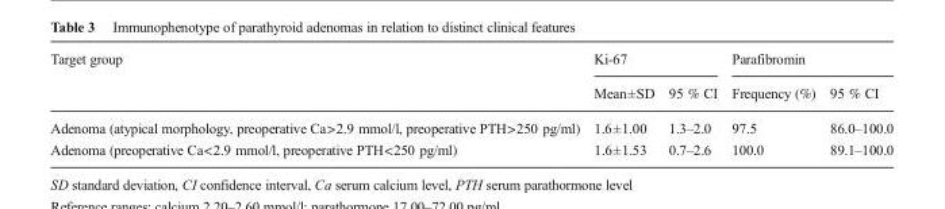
<table><thead><tr><td rowspan="2">Target group</td><td colspan="2">Ki-67</td><td colspan="2">Parafibromin</td></tr><tr><td>Mean±SD</td><td>95 % CI</td><td>Frequency (%)</td><td>95 % CI</td></tr></thead><tbody><tr><td>Adenoma (atypical morphology, preoperative Ca&gt;2.9 mmol/l, preoperative PTH&gt;250 pg/ml)</td><td>1.6±1.00</td><td>1.3–2.0</td><td>97.5</td><td>86.0–100.0</td></tr><tr><td>Adenoma (preoperative Ca&lt;2.9 mmol/l, preoperative PTH&lt;250 pg/ml)</td><td>1.6±1.53</td><td>0.7–2.6</td><td>100.0</td><td>89.1–100.0</td></tr></tbody></table>